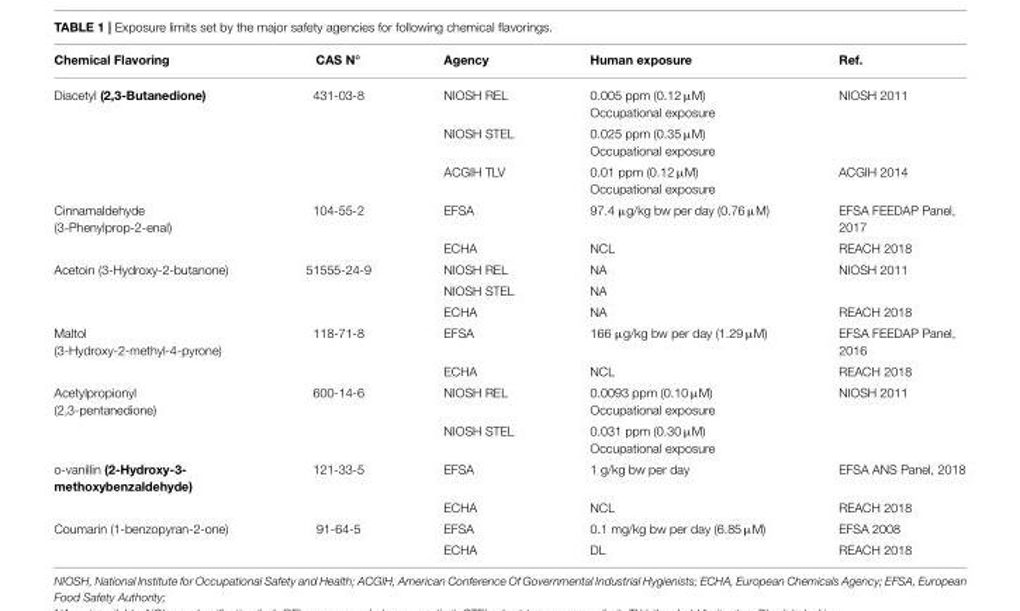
<table><thead><tr><td>Chemical Flavoring</td><td>CAS N◦</td><td>Agency</td><td>Human exposure</td><td>Ref.</td></tr></thead><tbody><tr><td rowspan="3">Diacetyl (2,3-Butanedione)</td><td>431-03-8</td><td>NIOSH REL</td><td>0.005 ppm (0.12 µM) Occupational exposure</td><td>NIOSH 2011</td></tr><tr><td></td><td>NIOSH STEL</td><td>0.025 ppm (0.35 µM) Occupational exposure</td><td></td></tr><tr><td></td><td>ACGIH TLV</td><td>0.01 ppm (0.12 µM) Occupational exposure</td><td>ACGIH 2014</td></tr><tr><td rowspan="2">Cinnamaldehyde (3-Phenylprop-2-enal)</td><td>104-55-2</td><td>EFSA</td><td>97.4 µg/kg bw per day (0.76 µM)</td><td>EFSA FEEDAP Panel, 2017</td></tr><tr><td></td><td>ECHA</td><td>NCL</td><td>REACH 2018</td></tr><tr><td rowspan="3">Acetoin (3-Hydroxy-2-butanone)</td><td>51555-24-9</td><td>NIOSH REL</td><td>NA</td><td>NIOSH 2011</td></tr><tr><td></td><td>NIOSH STEL</td><td>NA</td><td></td></tr><tr><td></td><td>ECHA</td><td>NA</td><td>REACH 2018</td></tr><tr><td rowspan="2">Maltol (3-Hydroxy-2-methyl-4-pyrone)</td><td>118-71-8</td><td>EFSA</td><td>166 µg/kg bw per day (1.29 µM)</td><td>EFSA FEEDAP Panel, 2016</td></tr><tr><td></td><td>ECHA</td><td>NCL</td><td>REACH 2018</td></tr><tr><td rowspan="2">Acetylpropionyl (2,3-pentanedione)</td><td>600-14-6</td><td>NIOSH REL</td><td>0.0093 ppm (0.10 µM) Occupational exposure</td><td>NIOSH 2011</td></tr><tr><td></td><td>NIOSH STEL</td><td>0.031 ppm (0.30 µM) Occupational exposure</td><td></td></tr><tr><td rowspan="2">o-vanillin (2-Hydroxy-3- methoxybenzaldehyde)</td><td>121-33-5</td><td>EFSA</td><td>1 g/kg bw per day</td><td>EFSA ANS Panel, 2018</td></tr><tr><td></td><td>ECHA</td><td>NCL</td><td>REACH 2018</td></tr><tr><td rowspan="2">Coumarin (1-benzopyran-2-one)</td><td>91-64-5</td><td>EFSA</td><td>0.1 mg/kg bw per day (6.85 µM)</td><td>EFSA 2008</td></tr><tr><td></td><td>ECHA</td><td>DL</td><td>REACH 2018</td></tr></tbody></table>